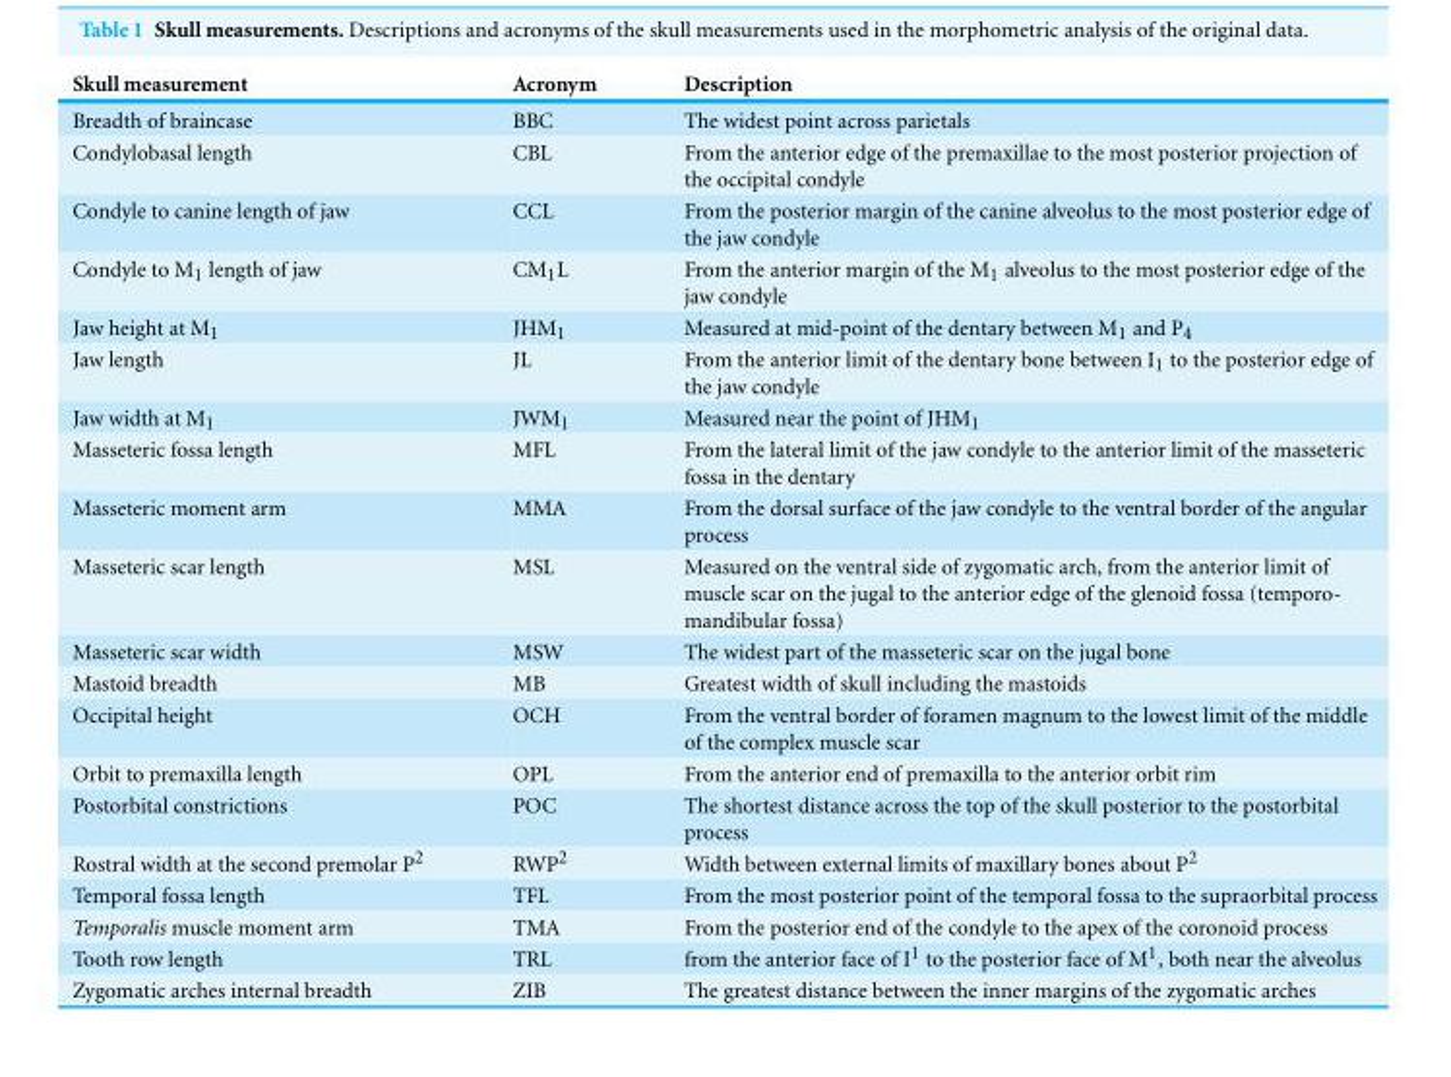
<table><thead><tr><td>Skull measurement</td><td>Acronym</td><td>Description</td></tr></thead><tbody><tr><td>Breadth of braincase</td><td>BBC</td><td>The widest point across parietals</td></tr><tr><td>Condylobasal length</td><td>CBL</td><td>From the anterior edge of the premaxillae to the most posterior projection of the occipital condyle</td></tr><tr><td>Condyle to canine length of jaw</td><td>CCL</td><td>From the posterior margin of the canine alveolus to the most posterior edge of the jaw condyle</td></tr><tr><td>Condyle to M<sub>1</sub> length of jaw</td><td>CM<sub>1</sub>L</td><td>From the anterior margin of the M<sub>1</sub> alveolus to the most posterior edge of the jaw condyle</td></tr><tr><td>Jaw height at M<sub>1</sub></td><td>JHM<sub>1</sub></td><td>Measured at mid-point of the dentary between M<sub>1</sub> and P<sub>4</sub></td></tr><tr><td>Jaw length</td><td>JL</td><td>From the anterior limit of the dentary bone between I<sub>1</sub> to the posterior edge of the jaw condyle</td></tr><tr><td>Jaw width at M<sub>1</sub></td><td>JWM<sub>1</sub></td><td>Measured near the point of JHM<sub>1</sub></td></tr><tr><td>Masseteric fossa length</td><td>MFL</td><td>From the lateral limit of the jaw condyle to the anterior limit of the masseteric fossa in the dentary</td></tr><tr><td>Masseteric moment arm</td><td>MMA</td><td>From the dorsal surface of the jaw condyle to the ventral border of the angular process</td></tr><tr><td>Masseteric scar length</td><td>MSL</td><td>Measured on the ventral side of zygomatic arch, from the anterior limit of muscle scar on the jugal to the anterior edge of the glenoid fossa (temporo- mandibular fossa)</td></tr><tr><td>Masseteric scar width</td><td>MSW</td><td>The widest part of the masseteric scar on the jugal bone</td></tr><tr><td>Mastoid breadth</td><td>MB</td><td>Greatest width of skull including the mastoids</td></tr><tr><td>Occipital height</td><td>OCH</td><td>From the ventral border of foramen magnum to the lowest limit of the middle of the complex muscle scar</td></tr><tr><td>Orbit to premaxilla length</td><td>OPL</td><td>From the anterior end of premaxilla to the anterior orbit rim</td></tr><tr><td>Postorbital constrictions</td><td>POC</td><td>The shortest distance across the top of the skull posterior to the postorbital process</td></tr><tr><td>Rostral width at the second premolar P<sup>2</sup></td><td>RWP<sup>2</sup></td><td>Width between external limits of maxillary bones about P<sup>2</sup></td></tr><tr><td>Temporal fossa length</td><td>TFL</td><td>From the most posterior point of the temporal fossa to the supraorbital process</td></tr><tr><td>Temporalis muscle moment arm</td><td>TMA</td><td>From the posterior end of the condyle to the apex of the coronoid process</td></tr><tr><td>Tooth row length</td><td>TRL</td><td>from the anterior face of I<sup>1</sup> to the posterior face of M<sup>1</sup>, both near the alveolus</td></tr><tr><td>Zygomatic arches internal breadth</td><td>ZIB</td><td>The greatest distance between the inner margins of the zygomatic arches</td></tr></tbody></table>